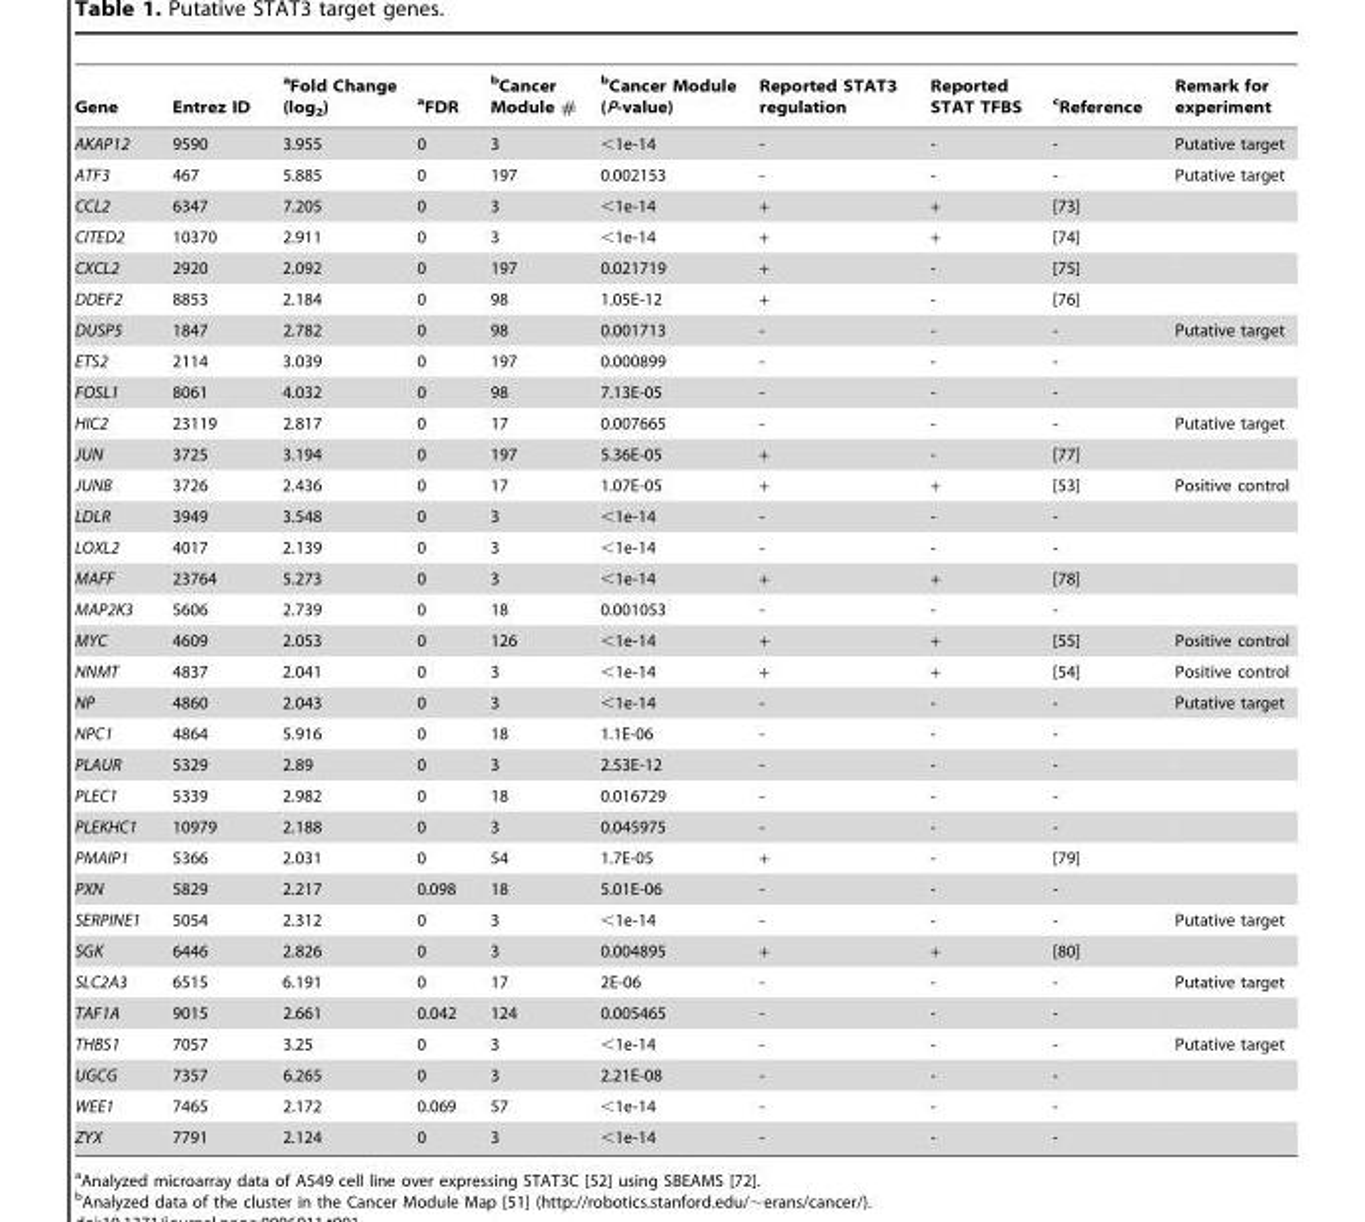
<table><thead><tr><td>Gene</td><td>Entrez ID</td><td>aFold Change (log<sub>2</sub>)</td><td>aFDR</td><td>bCancer Module #</td><td>bCancer Module (P-value)</td><td>Reported STAT3 regulation</td><td>Reported STAT TFBS</td><td><sup>c</sup>Reference</td><td>Remark for experiment</td></tr></thead><tbody><tr><td>AKAP12</td><td>9590</td><td>3.955</td><td>0</td><td>3</td><td>&lt;1e-14</td><td>-</td><td>-</td><td>-</td><td>Putative target</td></tr><tr><td>ATF3</td><td>467</td><td>5.885</td><td>0</td><td>197</td><td>0.002153</td><td>-</td><td>-</td><td>-</td><td>Putative target</td></tr><tr><td>CCL2</td><td>6347</td><td>7.205</td><td>0</td><td>3</td><td>&lt;1e-14</td><td>+</td><td>+</td><td>[73]</td><td></td></tr><tr><td>CITED2</td><td>10370</td><td>2.911</td><td>0</td><td>3</td><td>&lt;1e-14</td><td>+</td><td>+</td><td>[74]</td><td></td></tr><tr><td>CXCL2</td><td>2920</td><td>2.092</td><td>0</td><td>197</td><td>0.021719</td><td>+</td><td>-</td><td>[75]</td><td></td></tr><tr><td>DDEF2</td><td>8853</td><td>2.184</td><td>0</td><td>98</td><td>1.05E-12</td><td>+</td><td>-</td><td>[76]</td><td></td></tr><tr><td>DUSP5</td><td>1847</td><td>2.782</td><td>0</td><td>98</td><td>0.001713</td><td>-</td><td>-</td><td>-</td><td>Putative target</td></tr><tr><td>ETS2</td><td>2114</td><td>3.039</td><td>0</td><td>197</td><td>0.000899</td><td>-</td><td>-</td><td>-</td><td></td></tr><tr><td>FOSL1</td><td>8061</td><td>4.032</td><td>0</td><td>98</td><td>7.13E-05</td><td>-</td><td>-</td><td>-</td><td></td></tr><tr><td>HIC2</td><td>23119</td><td>2.817</td><td>0</td><td>17</td><td>0.007665</td><td>-</td><td>-</td><td>-</td><td>Putative target</td></tr><tr><td>JUN</td><td>3725</td><td>3.194</td><td>0</td><td>197</td><td>5.36E-05</td><td>+</td><td>-</td><td>[77]</td><td></td></tr><tr><td>JUNB</td><td>3726</td><td>2.436</td><td>0</td><td>17</td><td>1.07E-05</td><td>+</td><td>+</td><td>[53]</td><td>Positive control</td></tr><tr><td>LDLR</td><td>3949</td><td>3.548</td><td>0</td><td>3</td><td>&lt;1e-14</td><td>-</td><td>-</td><td>-</td><td></td></tr><tr><td>LOXL2</td><td>4017</td><td>2.139</td><td>0</td><td>3</td><td>&lt;1e-14</td><td>-</td><td>-</td><td>-</td><td></td></tr><tr><td>MAFF</td><td>23764</td><td>5.273</td><td>0</td><td>3</td><td>&lt;1e-14</td><td>+</td><td>+</td><td>[78]</td><td></td></tr><tr><td>MAP2K3</td><td>5606</td><td>2.739</td><td>0</td><td>18</td><td>0.001053</td><td>-</td><td>-</td><td>-</td><td></td></tr><tr><td>MYC</td><td>4609</td><td>2.053</td><td>0</td><td>126</td><td>&lt;1e-14</td><td>+</td><td>+</td><td>[55]</td><td>Positive control</td></tr><tr><td>NNMT</td><td>4837</td><td>2.041</td><td>0</td><td>3</td><td>&lt;1e-14</td><td>+</td><td>+</td><td>[54]</td><td>Positive control</td></tr><tr><td>NP</td><td>4860</td><td>2.043</td><td>0</td><td>3</td><td>&lt;1e-14</td><td>-</td><td>-</td><td>-</td><td>Putative target</td></tr><tr><td>NPC1</td><td>4864</td><td>5.916</td><td>0</td><td>18</td><td>1.1E-06</td><td>-</td><td>-</td><td>-</td><td></td></tr><tr><td>PLAUR</td><td>5329</td><td>2.89</td><td>0</td><td>3</td><td>2.53E-12</td><td>-</td><td>-</td><td>-</td><td></td></tr><tr><td>PLEC1</td><td>5339</td><td>2.982</td><td>0</td><td>18</td><td>0.016729</td><td>-</td><td>-</td><td>-</td><td></td></tr><tr><td>PLEKHC1</td><td>10979</td><td>2.188</td><td>0</td><td>3</td><td>0.045975</td><td>-</td><td>-</td><td>-</td><td></td></tr><tr><td>PMAIP1</td><td>5366</td><td>2.031</td><td>0</td><td>54</td><td>1.7E-05</td><td>+</td><td>-</td><td>[79]</td><td></td></tr><tr><td>PXN</td><td>5829</td><td>2.217</td><td>0.098</td><td>18</td><td>5.01E-06</td><td>-</td><td>-</td><td>-</td><td></td></tr><tr><td>SERPINE1</td><td>5054</td><td>2.312</td><td>0</td><td>3</td><td>&lt;1e-14</td><td>-</td><td>-</td><td>-</td><td>Putative target</td></tr><tr><td>SGK</td><td>6446</td><td>2.826</td><td>0</td><td>3</td><td>0.004895</td><td>+</td><td>+</td><td>[80]</td><td></td></tr><tr><td>SLC2A3</td><td>6515</td><td>6.191</td><td>0</td><td>17</td><td>2E-06</td><td>-</td><td>-</td><td>-</td><td>Putative target</td></tr><tr><td>TAF1A</td><td>9015</td><td>2.661</td><td>0.042</td><td>124</td><td>0.005465</td><td>-</td><td>-</td><td>-</td><td></td></tr><tr><td>THBS1</td><td>7057</td><td>3.25</td><td>0</td><td>3</td><td>&lt;1e-14</td><td>-</td><td>-</td><td>-</td><td>Putative target</td></tr><tr><td>UGCG</td><td>7357</td><td>6.265</td><td>0</td><td>3</td><td>2.21E-08</td><td>-</td><td>-</td><td>-</td><td></td></tr><tr><td>WEE1</td><td>7465</td><td>2.172</td><td>0.069</td><td>57</td><td>&lt;1e-14</td><td>-</td><td>-</td><td>-</td><td></td></tr><tr><td>ZYX</td><td>7791</td><td>2.124</td><td>0</td><td>3</td><td>&lt;1e-14</td><td>-</td><td>-</td><td>-</td><td></td></tr></tbody></table>